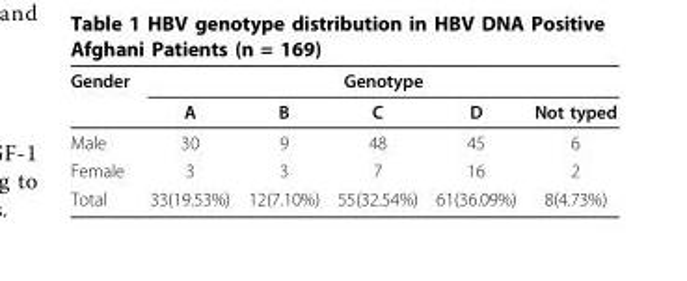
<table><thead><tr><td rowspan="2">Gender</td><td colspan="5">Genotype</td></tr><tr><td>A</td><td>B</td><td>C</td><td>D</td><td>Not typed</td></tr></thead><tbody><tr><td>Male</td><td>30</td><td>9</td><td>48</td><td>45</td><td>6</td></tr><tr><td>Female</td><td>3</td><td>3</td><td>7</td><td>16</td><td>2</td></tr><tr><td>Total</td><td>33(19.53%)</td><td>12(7.10%)</td><td>55(32.54%)</td><td>61(36.09%)</td><td>8(4.73%)</td></tr></tbody></table>